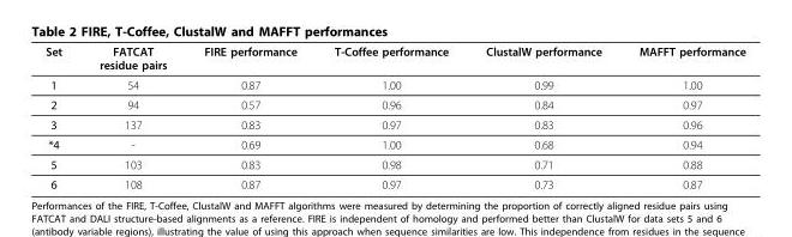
<table><thead><tr><td>Set</td><td>FATCAT residue pairs</td><td>FIRE performance</td><td>T-Coffee performance</td><td>ClustalW performance</td><td>MAFFT performance</td></tr></thead><tbody><tr><td>1</td><td>54</td><td>0.87</td><td>1.00</td><td>0.99</td><td>1.00</td></tr><tr><td>2</td><td>94</td><td>0.57</td><td>0.96</td><td>0.84</td><td>0.97</td></tr><tr><td>3</td><td>137</td><td>0.83</td><td>0.97</td><td>0.83</td><td>0.96</td></tr><tr><td>*4</td><td>-</td><td>0.69</td><td>1.00</td><td>0.68</td><td>0.94</td></tr><tr><td>5</td><td>103</td><td>0.83</td><td>0.98</td><td>0.71</td><td>0.88</td></tr><tr><td>6</td><td>108</td><td>0.87</td><td>0.97</td><td>0.73</td><td>0.87</td></tr></tbody></table>